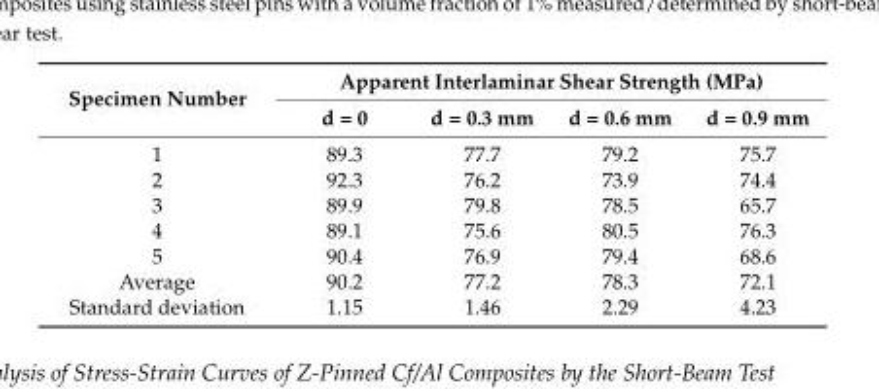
<table><thead><tr><td rowspan="2">Specimen Number</td><td colspan="4">Apparent Interlaminar Shear Strength (MPa)</td></tr><tr><td>d = 0</td><td>d = 0.3 mm</td><td>d = 0.6 mm</td><td>d = 0.9 mm</td></tr></thead><tbody><tr><td>1</td><td>89.3</td><td>77.7</td><td>79.2</td><td>75.7</td></tr><tr><td>2</td><td>92.3</td><td>76.2</td><td>73.9</td><td>74.4</td></tr><tr><td>3</td><td>89.9</td><td>79.8</td><td>78.5</td><td>65.7</td></tr><tr><td>4</td><td>89.1</td><td>75.6</td><td>80.5</td><td>76.3</td></tr><tr><td>5</td><td>90.4</td><td>76.9</td><td>79.4</td><td>68.6</td></tr><tr><td>Average</td><td>90.2</td><td>77.2</td><td>78.3</td><td>72.1</td></tr><tr><td>Standard deviation</td><td>1.15</td><td>1.46</td><td>2.29</td><td>4.23</td></tr></tbody></table>